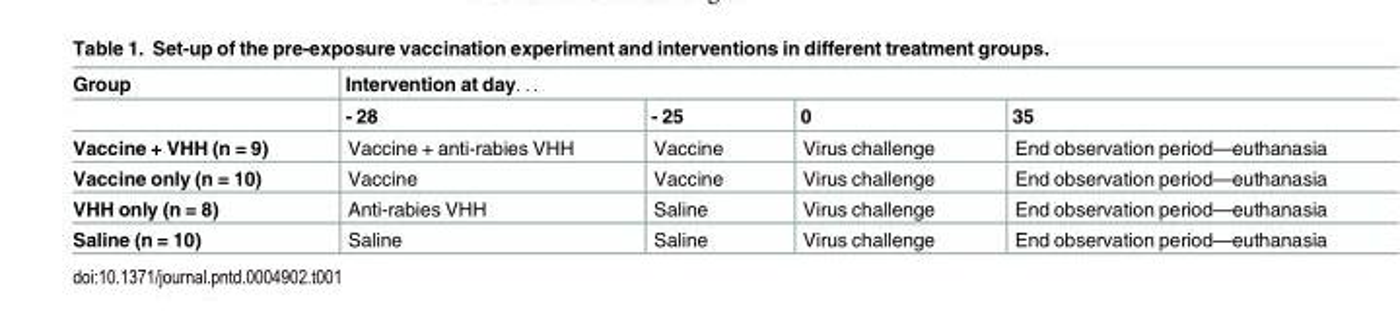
<table><thead><tr><td rowspan="2">Group</td><td colspan="4">Intervention at day. . .</td></tr><tr><td>- 28</td><td>- 25</td><td>0</td><td>35</td></tr></thead><tbody><tr><td>Vaccine + VHH (n = 9)</td><td>Vaccine + anti-rabies VHH</td><td>Vaccine</td><td>Virus challenge</td><td>End observation period—euthanasia</td></tr><tr><td>Vaccine only (n = 10)</td><td>Vaccine</td><td>Vaccine</td><td>Virus challenge</td><td>End observation period—euthanasia</td></tr><tr><td>VHH only (n = 8)</td><td>Anti-rabies VHH</td><td>Saline</td><td>Virus challenge</td><td>End observation period—euthanasia</td></tr><tr><td>Saline (n = 10)</td><td>Saline</td><td>Saline</td><td>Virus challenge</td><td>End observation period—euthanasia</td></tr></tbody></table>